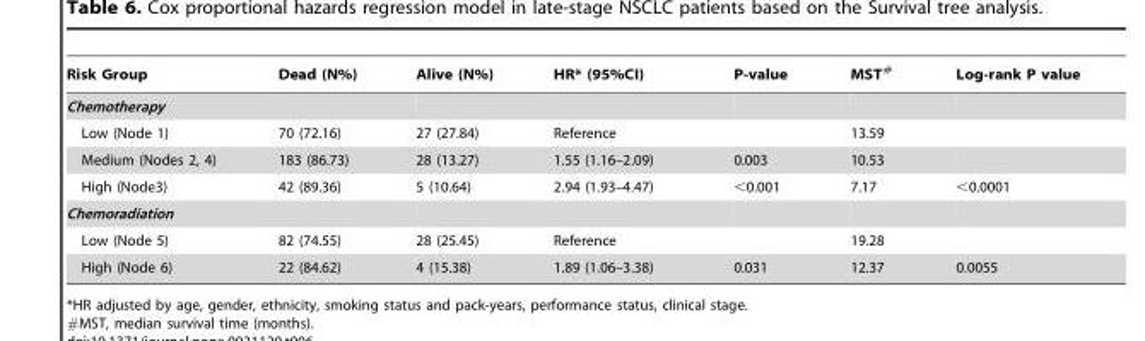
<table><thead><tr><td>Risk Group</td><td>Dead (N%)</td><td>Alive (N%)</td><td>HR* (95%CI)</td><td>P-value</td><td>MST#</td><td>Log-rank P value</td></tr></thead><tbody><tr><td colspan="7">Chemotherapy</td></tr><tr><td>Low (Node 1)</td><td>70 (72.16)</td><td>27 (27.84)</td><td>Reference</td><td></td><td>13.59</td><td></td></tr><tr><td>Medium (Nodes 2, 4)</td><td>183 (86.73)</td><td>28 (13.27)</td><td>1.55 (1.16–2.09)</td><td>0.003</td><td>10.53</td><td></td></tr><tr><td>High (Node3)</td><td>42 (89.36)</td><td>5 (10.64)</td><td>2.94 (1.93–4.47)</td><td>&lt;0.001</td><td>7.17</td><td>&lt;0.0001</td></tr><tr><td colspan="7">Chemoradiation</td></tr><tr><td>Low (Node 5)</td><td>82 (74.55)</td><td>28 (25.45)</td><td>Reference</td><td></td><td>19.28</td><td></td></tr><tr><td>High (Node 6)</td><td>22 (84.62)</td><td>4 (15.38)</td><td>1.89 (1.06–3.38)</td><td>0.031</td><td>12.37</td><td>0.0055</td></tr></tbody></table>